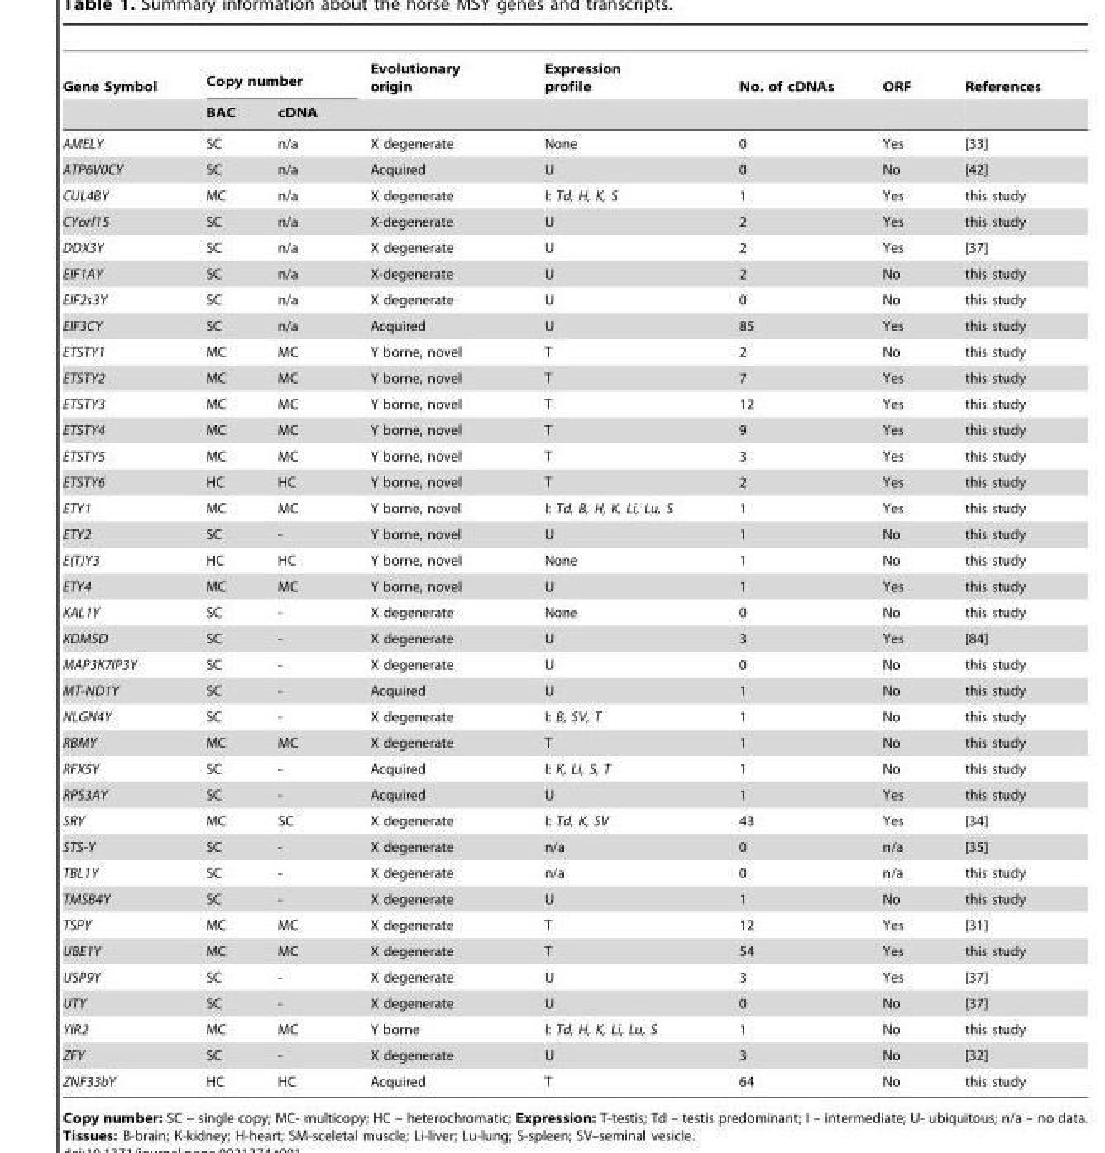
<table><thead><tr><td rowspan="2">Gene Symbol</td><td colspan="2">Copy number</td><td rowspan="2">Evolutionary origin</td><td rowspan="2">Expression profile</td><td rowspan="2">No. of cDNAs</td><td rowspan="2">ORF</td><td rowspan="2">References</td></tr><tr><td>BAC</td><td>cDNA</td></tr></thead><tbody><tr><td>AMELY</td><td>SC</td><td>n/a</td><td>X degenerate</td><td>None</td><td>0</td><td>Yes</td><td>[33]</td></tr><tr><td>ATP6V0CY</td><td>SC</td><td>n/a</td><td>Acquired</td><td>U</td><td>0</td><td>No</td><td>[42]</td></tr><tr><td>CUL4BY</td><td>MC</td><td>n/a</td><td>X degenerate</td><td>I: Td, H, K, S</td><td>1</td><td>Yes</td><td>this study</td></tr><tr><td>CYorf15</td><td>SC</td><td>n/a</td><td>X-degenerate</td><td>U</td><td>2</td><td>Yes</td><td>this study</td></tr><tr><td>DDX3Y</td><td>SC</td><td>n/a</td><td>X degenerate</td><td>U</td><td>2</td><td>Yes</td><td>[37]</td></tr><tr><td>EIF1AY</td><td>SC</td><td>n/a</td><td>X-degenerate</td><td>U</td><td>2</td><td>No</td><td>this study</td></tr><tr><td>EIF2s3Y</td><td>SC</td><td>n/a</td><td>X degenerate</td><td>U</td><td>0</td><td>No</td><td>this study</td></tr><tr><td>EIF3CY</td><td>SC</td><td>n/a</td><td>Acquired</td><td>U</td><td>85</td><td>Yes</td><td>this study</td></tr><tr><td>ETSTY1</td><td>MC</td><td>MC</td><td>Y borne, novel</td><td>T</td><td>2</td><td>No</td><td>this study</td></tr><tr><td>ETSTY2</td><td>MC</td><td>MC</td><td>Y borne, novel</td><td>T</td><td>7</td><td>Yes</td><td>this study</td></tr><tr><td>ETSTY3</td><td>MC</td><td>MC</td><td>Y borne, novel</td><td>T</td><td>12</td><td>Yes</td><td>this study</td></tr><tr><td>ETSTY4</td><td>MC</td><td>MC</td><td>Y borne, novel</td><td>T</td><td>9</td><td>Yes</td><td>this study</td></tr><tr><td>ETSTY5</td><td>MC</td><td>MC</td><td>Y borne, novel</td><td>T</td><td>3</td><td>Yes</td><td>this study</td></tr><tr><td>ETSTY6</td><td>HC</td><td>HC</td><td>Y borne, novel</td><td>T</td><td>2</td><td>Yes</td><td>this study</td></tr><tr><td>ETY1</td><td>MC</td><td>MC</td><td>Y borne, novel</td><td>I: Td, B, H, K, Li, Lu, S</td><td>1</td><td>Yes</td><td>this study</td></tr><tr><td>ETY2</td><td>SC</td><td>-</td><td>Y borne, novel</td><td>U</td><td>1</td><td>No</td><td>this study</td></tr><tr><td>E(T)Y3</td><td>HC</td><td>HC</td><td>Y borne, novel</td><td>None</td><td>1</td><td>No</td><td>this study</td></tr><tr><td>ETY4</td><td>MC</td><td>MC</td><td>Y borne, novel</td><td>U</td><td>1</td><td>Yes</td><td>this study</td></tr><tr><td>KAL1Y</td><td>SC</td><td>-</td><td>X degenerate</td><td>None</td><td>0</td><td>No</td><td>this study</td></tr><tr><td>KDM5D</td><td>SC</td><td>-</td><td>X degenerate</td><td>U</td><td>3</td><td>Yes</td><td>[84]</td></tr><tr><td>MAP3K7IP3Y</td><td>SC</td><td>-</td><td>X degenerate</td><td>U</td><td>0</td><td>No</td><td>this study</td></tr><tr><td>MT-ND1Y</td><td>SC</td><td>-</td><td>Acquired</td><td>U</td><td>1</td><td>No</td><td>this study</td></tr><tr><td>NLGN4Y</td><td>SC</td><td>-</td><td>X degenerate</td><td>I: B, SV, T</td><td>1</td><td>No</td><td>this study</td></tr><tr><td>RBMY</td><td>MC</td><td>MC</td><td>X degenerate</td><td>T</td><td>1</td><td>No</td><td>this study</td></tr><tr><td>RFX5Y</td><td>SC</td><td>-</td><td>Acquired</td><td>I: K, Li, S, T</td><td>1</td><td>No</td><td>this study</td></tr><tr><td>RPS3AY</td><td>SC</td><td>-</td><td>Acquired</td><td>U</td><td>1</td><td>Yes</td><td>this study</td></tr><tr><td>SRY</td><td>MC</td><td>SC</td><td>X degenerate</td><td>I: Td, K, SV</td><td>43</td><td>Yes</td><td>[34]</td></tr><tr><td>STS-Y</td><td>SC</td><td>-</td><td>X degenerate</td><td>n/a</td><td>0</td><td>n/a</td><td>[35]</td></tr><tr><td>TBL1Y</td><td>SC</td><td>-</td><td>X degenerate</td><td>n/a</td><td>0</td><td>n/a</td><td>this study</td></tr><tr><td>TMSB4Y</td><td>SC</td><td>-</td><td>X degenerate</td><td>U</td><td>1</td><td>No</td><td>this study</td></tr><tr><td>TSPY</td><td>MC</td><td>MC</td><td>X degenerate</td><td>T</td><td>12</td><td>Yes</td><td>[31]</td></tr><tr><td>UBE1Y</td><td>MC</td><td>MC</td><td>X degenerate</td><td>T</td><td>54</td><td>Yes</td><td>this study</td></tr><tr><td>USP9Y</td><td>SC</td><td>-</td><td>X degenerate</td><td>U</td><td>3</td><td>Yes</td><td>[37]</td></tr><tr><td>UTY</td><td>SC</td><td>-</td><td>X degenerate</td><td>U</td><td>0</td><td>No</td><td>[37]</td></tr><tr><td>YIR2</td><td>MC</td><td>MC</td><td>Y borne</td><td>I: Td, H, K, Li, Lu, S</td><td>1</td><td>No</td><td>this study</td></tr><tr><td>ZFY</td><td>SC</td><td>-</td><td>X degenerate</td><td>U</td><td>3</td><td>No</td><td>[32]</td></tr><tr><td>ZNF33bY</td><td>HC</td><td>HC</td><td>Acquired</td><td>T</td><td>64</td><td>No</td><td>this study</td></tr></tbody></table>